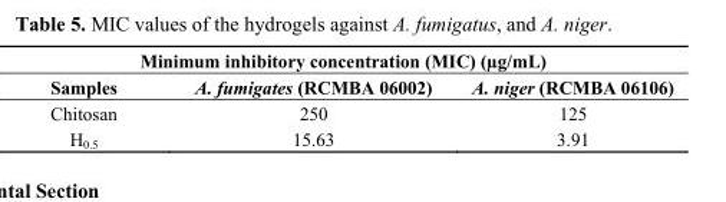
<table><thead><tr><td colspan="3">Minimum inhibitory concentration (MIC) (µg/mL)</td></tr><tr><td>Samples</td><td>A. fumigates (RCMBA 06002)</td><td>A. niger (RCMBA 06106)</td></tr></thead><tbody><tr><td>Chitosan</td><td>250</td><td>125</td></tr><tr><td>H<sub>0.5</sub></td><td>15.63</td><td>3.91</td></tr></tbody></table>